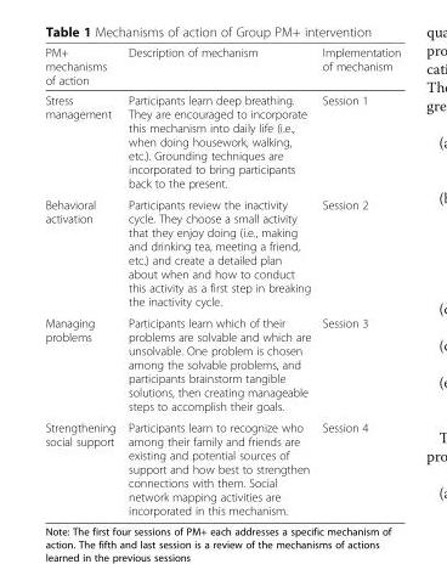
<table><thead><tr><td>PM+ mechanisms of action</td><td>Description of mechanism</td><td>Implementation of mechanism</td></tr></thead><tbody><tr><td>Stress management</td><td>Participants learn deep breathing. They are encouraged to incorporate this mechanism into daily life (i.e., when doing housework, walking, etc.). Grounding techniques are incorporated to bring participants back to the present.</td><td>Session 1</td></tr><tr><td>Behavioral activation</td><td>Participants review the inactivity cycle. They choose a small activity that they enjoy doing (i.e., making and drinking tea, meeting a friend, etc.) and create a detailed plan about when and how to conduct this activity as a first step in breaking the inactivity cycle.</td><td>Session 2</td></tr><tr><td>Managing problems</td><td>Participants learn which of their problems are solvable and which are unsolvable. One problem is chosen among the solvable problems, and participants brainstorm tangible solutions, then creating manageable steps to accomplish their goals.</td><td>Session 3</td></tr><tr><td>Strengthening social support</td><td>Participants learn to recognize who among their family and friends are existing and potential sources of support and how best to strengthen connections with them. Social network mapping activities are incorporated in this mechanism.</td><td>Session 4</td></tr></tbody></table>